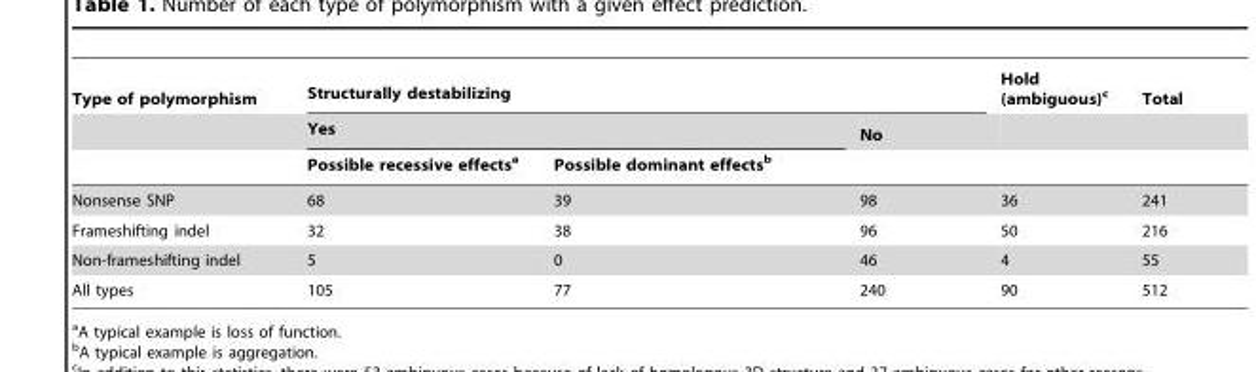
<table><thead><tr><td rowspan="3">Type of polymorphism</td><td colspan="3">Structurally destabilizing</td><td rowspan="3">Hold (ambiguous)<sup>c</sup></td><td rowspan="3">Total</td></tr><tr><td colspan="2">Yes</td><td rowspan="2">No</td></tr><tr><td>Possible recessive effects<sup>a</sup></td><td>Possible dominant effects<sup>b</sup></td></tr></thead><tbody><tr><td>Nonsense SNP</td><td>68</td><td>39</td><td>98</td><td>36</td><td>241</td></tr><tr><td>Frameshifting indel</td><td>32</td><td>38</td><td>96</td><td>50</td><td>216</td></tr><tr><td>Non-frameshifting indel</td><td>5</td><td>0</td><td>46</td><td>4</td><td>55</td></tr><tr><td>All types</td><td>105</td><td>77</td><td>240</td><td>90</td><td>512</td></tr></tbody></table>